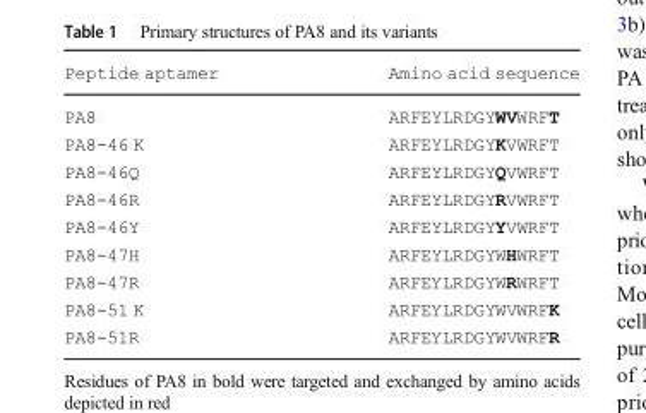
<table><thead><tr><td>Peptide aptamer</td><td>Amino acid sequence</td></tr></thead><tbody><tr><td>PA8</td><td>ARFEYLRDGYWVWRFT</td></tr><tr><td>PA8-46 K</td><td>ARFEYLRDGYKVWRFT</td></tr><tr><td>PA8-46Q</td><td>ARFEYLRDGYQVWRFT</td></tr><tr><td>PA8-46R</td><td>ARFEYLRDGYRVWRFT</td></tr><tr><td>PA8-46Y</td><td>ARFEYLRDGYYVWRFT</td></tr><tr><td>PA8-47H</td><td>ARFEYLRDGYWHWRFT</td></tr><tr><td>PA8-47R</td><td>ARFEYLRDGYWRWRFT</td></tr><tr><td>PA8-51 K</td><td>ARFEYLRDGYWVWRFK</td></tr><tr><td>PA8-51R</td><td>ARFEYLRDGYWVWRFR</td></tr></tbody></table>